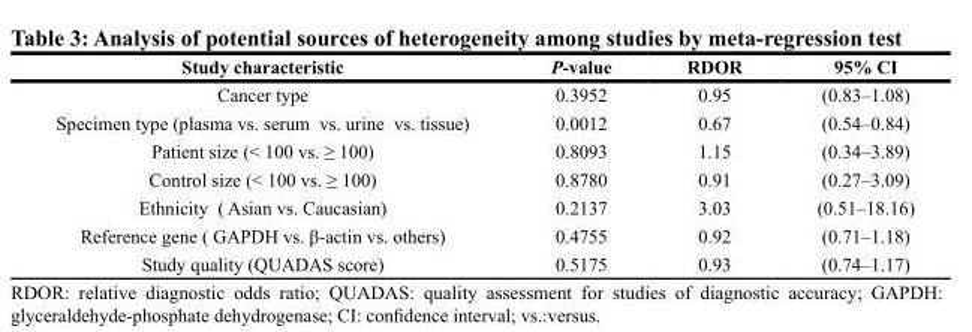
<table><thead><tr><td>Study characteristic</td><td>P-value</td><td>RDOR</td><td>95% CI</td></tr></thead><tbody><tr><td>Cancer type</td><td>0.3952</td><td>0.95</td><td>(0.83–1.08)</td></tr><tr><td>Specimen type (plasma vs. serum vs. urine vs. tissue)</td><td>0.0012</td><td>0.67</td><td>(0.54–0.84)</td></tr><tr><td>Patient size (&lt; 100 vs. ≥ 100)</td><td>0.8093</td><td>1.15</td><td>(0.34–3.89)</td></tr><tr><td>Control size (&lt; 100 vs. ≥ 100)</td><td>0.8780</td><td>0.91</td><td>(0.27–3.09)</td></tr><tr><td>Ethnicity ( Asian vs. Caucasian)</td><td>0.2137</td><td>3.03</td><td>(0.51–18.16)</td></tr><tr><td>Reference gene ( GAPDH vs. β-actin vs. others)</td><td>0.4755</td><td>0.92</td><td>(0.71–1.18)</td></tr><tr><td>Study quality (QUADAS score)</td><td>0.5175</td><td>0.93</td><td>(0.74–1.17)</td></tr></tbody></table>